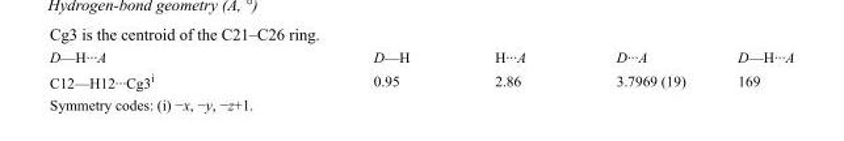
<table><tbody><tr><td>D—H···A</td><td>D—H</td><td>H···A</td><td>D···A</td><td>D—H···A</td></tr><tr><td>C12—H12···Cg3<sup>i</sup></td><td>0.95</td><td>2.86</td><td>3.7969 (19)</td><td>169</td></tr></tbody></table>